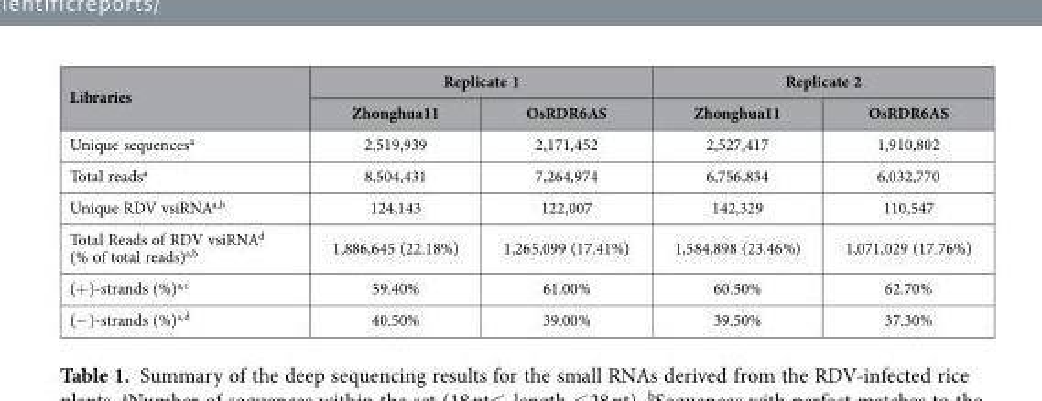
<table><tbody><tr><td rowspan="2">Libraries</td><td colspan="2">Replicate 1</td><td colspan="2">Replicate 2</td></tr><tr><td>Zhonghua11</td><td>OsRDR6AS</td><td>Zhonghua11</td><td>OsRDR6AS</td></tr><tr><td>Unique sequences<sup>a</sup></td><td>2,519,939</td><td>2,171,452</td><td>2,527,417</td><td>1,910,802</td></tr><tr><td>Total reads<sup>a</sup></td><td>8,504,431</td><td>7,264,974</td><td>6,756,834</td><td>6,032,770</td></tr><tr><td>Unique RDV vsiRNA<sup>a</sup>,<sup>b</sup></td><td>124,143</td><td>122,007</td><td>142,329</td><td>110,547</td></tr><tr><td>Total Reads of RDV vsiRNA<sup>d</sup> (% of total reads)<sup>a</sup>,<sup>b</sup></td><td>1,886,645 (22.18%)</td><td>1,265,099 (17.41%)</td><td>1,584,898 (23.46%)</td><td>1,071,029 (17.76%)</td></tr><tr><td>(+ )-strands (%)<sup>a</sup>,<sup>c</sup></td><td>59.40%</td><td>61.00%</td><td>60.50%</td><td>62.70%</td></tr><tr><td>(− )-strands (%)<sup>a</sup>,<sup>d</sup></td><td>40.50%</td><td>39.00%</td><td>39.50%</td><td>37.30%</td></tr></tbody></table>